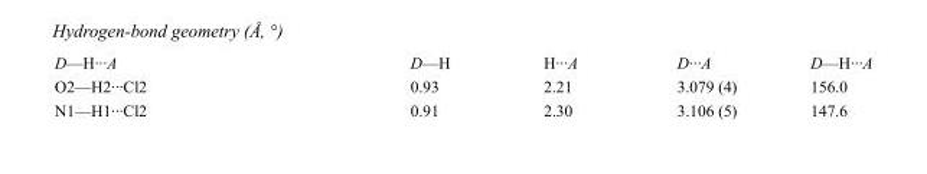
<table><tbody><tr><td>D—H···A</td><td>D—H</td><td>H···A</td><td>D···A</td><td>D—H···A</td></tr><tr><td>O2—H2···Cl2</td><td>0.93</td><td>2.21</td><td>3.079 (4)</td><td>156.0</td></tr><tr><td>N1—H1···Cl2</td><td>0.91</td><td>2.30</td><td>3.106 (5)</td><td>147.6</td></tr></tbody></table>